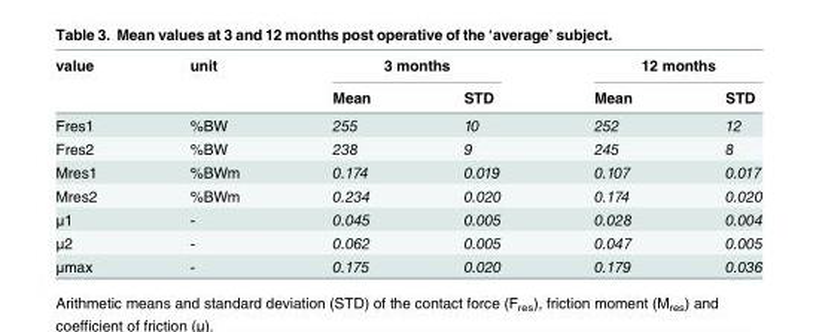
<table><thead><tr><td rowspan="2">value</td><td rowspan="2">unit</td><td colspan="2">3 months</td><td colspan="2">12 months</td></tr><tr><td>Mean</td><td>STD</td><td>Mean</td><td>STD</td></tr></thead><tbody><tr><td>Fres1</td><td>%BW</td><td>255</td><td>10</td><td>252</td><td>12</td></tr><tr><td>Fres2</td><td>%BW</td><td>238</td><td>9</td><td>245</td><td>8</td></tr><tr><td>Mres1</td><td>%BWm</td><td>0.174</td><td>0.019</td><td>0.107</td><td>0.017</td></tr><tr><td>Mres2</td><td>%BWm</td><td>0.234</td><td>0.020</td><td>0.174</td><td>0.020</td></tr><tr><td>μ1</td><td>-</td><td>0.045</td><td>0.005</td><td>0.028</td><td>0.004</td></tr><tr><td>μ2</td><td>-</td><td>0.062</td><td>0.005</td><td>0.047</td><td>0.005</td></tr><tr><td>μmax</td><td>-</td><td>0.175</td><td>0.020</td><td>0.179</td><td>0.036</td></tr></tbody></table>